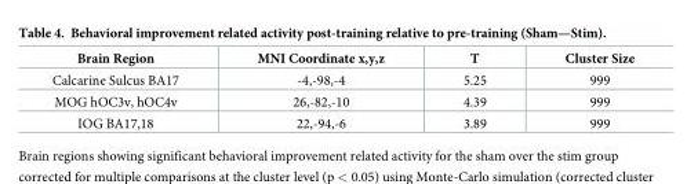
<table><thead><tr><td>Brain Region</td><td>MNI Coordinate x,y,z</td><td>T</td><td>Cluster Size</td></tr></thead><tbody><tr><td>Calcarine Sulcus BA17</td><td>-4,-98,-4</td><td>5.25</td><td>999</td></tr><tr><td>MOG hOC3v, hOC4v</td><td>26,-82,-10</td><td>4.39</td><td>999</td></tr><tr><td>IOG BA17,18</td><td>22,-94,-6</td><td>3.89</td><td>999</td></tr></tbody></table>